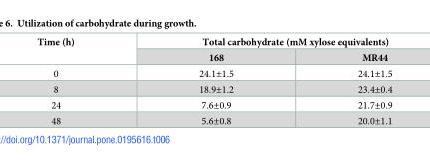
<table><thead><tr><td rowspan="2">Time (h)</td><td colspan="2">Total carbohydrate (mM xylose equivalents)</td></tr><tr><td>168</td><td>MR44</td></tr></thead><tbody><tr><td>0</td><td>24.1±1.5</td><td>24.1±1.5</td></tr><tr><td>8</td><td>18.9±1.2</td><td>23.4±0.4</td></tr><tr><td>24</td><td>7.6±0.9</td><td>21.7±0.9</td></tr><tr><td>48</td><td>5.6±0.8</td><td>20.0±1.1</td></tr></tbody></table>